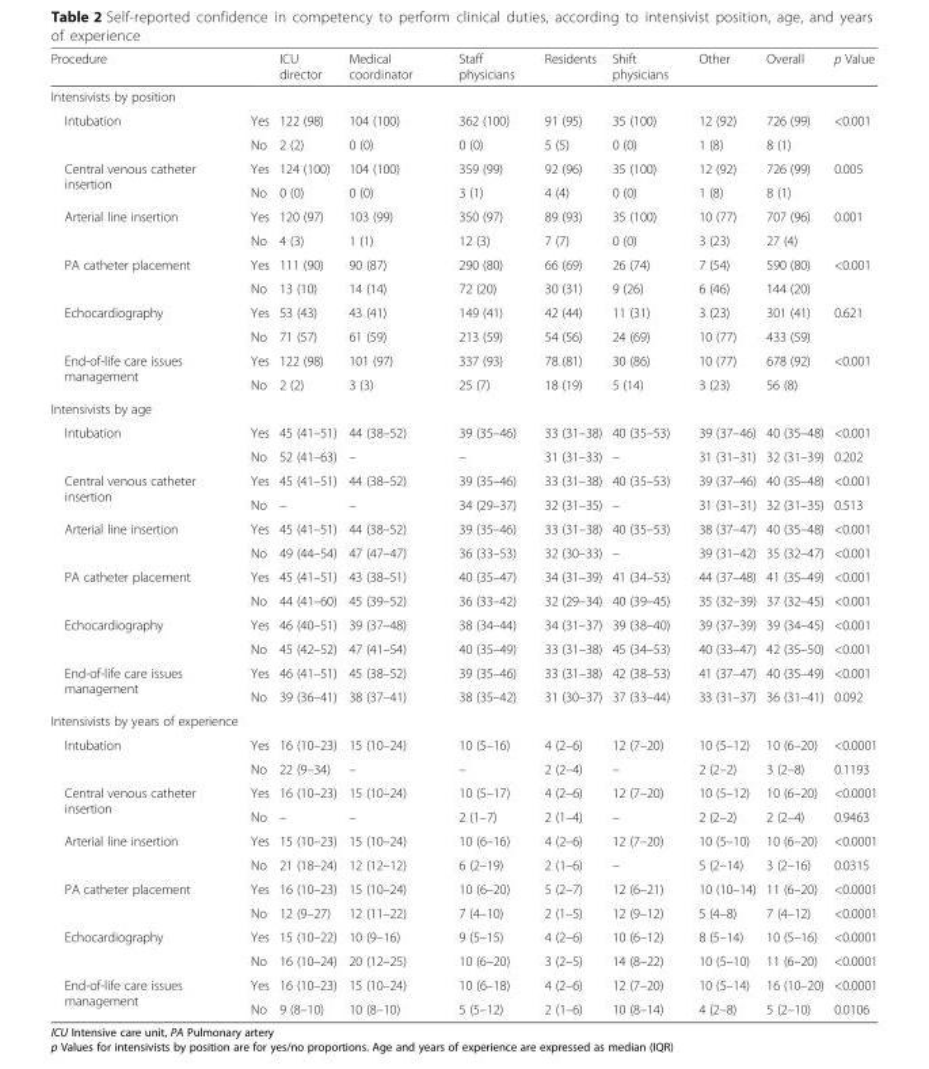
<table><thead><tr><td>Procedure</td><td></td><td>ICU director</td><td>Medical coordinator</td><td>Staff physicians</td><td>Residents</td><td>Shift physicians</td><td>Other</td><td>Overall</td><td>p Value</td></tr></thead><tbody><tr><td colspan="10">Intensivists by position</td></tr><tr><td rowspan="2">Intubation</td><td>Yes</td><td>122 (98)</td><td>104 (100)</td><td>362 (100)</td><td>91 (95)</td><td>35 (100)</td><td>12 (92)</td><td>726 (99)</td><td>&lt;0.001</td></tr><tr><td>No</td><td>2 (2)</td><td>0 (0)</td><td>0 (0)</td><td>5 (5)</td><td>0 (0)</td><td>1 (8)</td><td>8 (1)</td><td></td></tr><tr><td rowspan="2">Central venous catheter insertion</td><td>Yes</td><td>124 (100)</td><td>104 (100)</td><td>359 (99)</td><td>92 (96)</td><td>35 (100)</td><td>12 (92)</td><td>726 (99)</td><td>0.005</td></tr><tr><td>No</td><td>0 (0)</td><td>0 (0)</td><td>3 (1)</td><td>4 (4)</td><td>0 (0)</td><td>1 (8)</td><td>8 (1)</td><td></td></tr><tr><td rowspan="2">Arterial line insertion</td><td>Yes</td><td>120 (97)</td><td>103 (99)</td><td>350 (97)</td><td>89 (93)</td><td>35 (100)</td><td>10 (77)</td><td>707 (96)</td><td>0.001</td></tr><tr><td>No</td><td>4 (3)</td><td>1 (1)</td><td>12 (3)</td><td>7 (7)</td><td>0 (0)</td><td>3 (23)</td><td>27 (4)</td><td></td></tr><tr><td rowspan="2">PA catheter placement</td><td>Yes</td><td>111 (90)</td><td>90 (87)</td><td>290 (80)</td><td>66 (69)</td><td>26 (74)</td><td>7 (54)</td><td>590 (80)</td><td>&lt;0.001</td></tr><tr><td>No</td><td>13 (10)</td><td>14 (14)</td><td>72 (20)</td><td>30 (31)</td><td>9 (26)</td><td>6 (46)</td><td>144 (20)</td><td></td></tr><tr><td rowspan="2">Echocardiography</td><td>Yes</td><td>53 (43)</td><td>43 (41)</td><td>149 (41)</td><td>42 (44)</td><td>11 (31)</td><td>3 (23)</td><td>301 (41)</td><td>0.621</td></tr><tr><td>No</td><td>71 (57)</td><td>61 (59)</td><td>213 (59)</td><td>54 (56)</td><td>24 (69)</td><td>10 (77)</td><td>433 (59)</td><td></td></tr><tr><td rowspan="2">End-of-life care issues management</td><td>Yes</td><td>122 (98)</td><td>101 (97)</td><td>337 (93)</td><td>78 (81)</td><td>30 (86)</td><td>10 (77)</td><td>678 (92)</td><td>&lt;0.001</td></tr><tr><td>No</td><td>2 (2)</td><td>3 (3)</td><td>25 (7)</td><td>18 (19)</td><td>5 (14)</td><td>3 (23)</td><td>56 (8)</td><td></td></tr><tr><td colspan="10">Intensivists by age</td></tr><tr><td rowspan="2">Intubation</td><td>Yes</td><td>45 (41–51)</td><td>44 (38–52)</td><td>39 (35–46)</td><td>33 (31–38)</td><td>40 (35–53)</td><td>39 (37–46)</td><td>40 (35–48)</td><td>&lt;0.001</td></tr><tr><td>No</td><td>52 (41–63)</td><td>–</td><td>–</td><td>31 (31–33)</td><td>–</td><td>31 (31–31)</td><td>32 (31–39)</td><td>0.202</td></tr><tr><td rowspan="2">Central venous catheter insertion</td><td>Yes</td><td>45 (41–51)</td><td>44 (38–52)</td><td>39 (35–46)</td><td>33 (31–38)</td><td>40 (35–53)</td><td>39 (37–46)</td><td>40 (35–48)</td><td>&lt;0.001</td></tr><tr><td>No</td><td>–</td><td>–</td><td>34 (29–37)</td><td>32 (31–35)</td><td>–</td><td>31 (31–31)</td><td>32 (31–35)</td><td>0.513</td></tr><tr><td rowspan="2">Arterial line insertion</td><td>Yes</td><td>45 (41–51)</td><td>44 (38–52)</td><td>39 (35–46)</td><td>33 (31–38)</td><td>40 (35–53)</td><td>38 (37–47)</td><td>40 (35–48)</td><td>&lt;0.001</td></tr><tr><td>No</td><td>49 (44–54)</td><td>47 (47–47)</td><td>36 (33–53)</td><td>32 (30–33)</td><td>–</td><td>39 (31–42)</td><td>35 (32–47)</td><td>&lt;0.001</td></tr><tr><td rowspan="2">PA catheter placement</td><td>Yes</td><td>45 (41–51)</td><td>43 (38–51)</td><td>40 (35–47)</td><td>34 (31–39)</td><td>41 (34–53)</td><td>44 (37–48)</td><td>41 (35–49)</td><td>&lt;0.001</td></tr><tr><td>No</td><td>44 (41–60)</td><td>45 (39–52)</td><td>36 (33–42)</td><td>32 (29–34)</td><td>40 (39–45)</td><td>35 (32–39)</td><td>37 (32–45)</td><td>&lt;0.001</td></tr><tr><td rowspan="2">Echocardiography</td><td>Yes</td><td>46 (40–51)</td><td>39 (37–48)</td><td>38 (34–44)</td><td>34 (31–37)</td><td>39 (38–40)</td><td>39 (37–39)</td><td>39 (34–45)</td><td>&lt;0.001</td></tr><tr><td>No</td><td>45 (42–52)</td><td>47 (41–54)</td><td>40 (35–49)</td><td>33 (31–38)</td><td>45 (34–53)</td><td>40 (33–47)</td><td>42 (35–50)</td><td>&lt;0.001</td></tr><tr><td rowspan="2">End-of-life care issues management</td><td>Yes</td><td>46 (41–51)</td><td>45 (38–52)</td><td>39 (35–46)</td><td>33 (31–38)</td><td>42 (38–53)</td><td>41 (37–47)</td><td>40 (35–49)</td><td>&lt;0.001</td></tr><tr><td>No</td><td>39 (36–41)</td><td>38 (37–41)</td><td>38 (35–42)</td><td>31 (30–37)</td><td>37 (33–44)</td><td>33 (31–37)</td><td>36 (31–41)</td><td>0.092</td></tr><tr><td colspan="10">Intensivists by years of experience</td></tr><tr><td rowspan="2">Intubation</td><td>Yes</td><td>16 (10–23)</td><td>15 (10–24)</td><td>10 (5–16)</td><td>4 (2–6)</td><td>12 (7–20)</td><td>10 (5–12)</td><td>10 (6–20)</td><td>&lt;0.0001</td></tr><tr><td>No</td><td>22 (9–34)</td><td>–</td><td>–</td><td>2 (2–4)</td><td>–</td><td>2 (2–2)</td><td>3 (2–8)</td><td>0.1193</td></tr><tr><td rowspan="2">Central venous catheter insertion</td><td>Yes</td><td>16 (10–23)</td><td>15 (10–24)</td><td>10 (5–17)</td><td>4 (2–6)</td><td>12 (7–20)</td><td>10 (5–12)</td><td>10 (6–20)</td><td>&lt;0.0001</td></tr><tr><td>No</td><td>–</td><td>–</td><td>2 (1–7)</td><td>2 (1–4)</td><td>–</td><td>2 (2–2)</td><td>2 (2–4)</td><td>0.9463</td></tr><tr><td rowspan="2">Arterial line insertion</td><td>Yes</td><td>15 (10–23)</td><td>15 (10–24)</td><td>10 (6–16)</td><td>4 (2–6)</td><td>12 (7–20)</td><td>10 (5–10)</td><td>10 (6–20)</td><td>&lt;0.0001</td></tr><tr><td>No</td><td>21 (18–24)</td><td>12 (12–12)</td><td>6 (2–19)</td><td>2 (1–6)</td><td>–</td><td>5 (2–14)</td><td>3 (2–16)</td><td>0.0315</td></tr><tr><td rowspan="2">PA catheter placement</td><td>Yes</td><td>16 (10–23)</td><td>15 (10–24)</td><td>10 (6–20)</td><td>5 (2–7)</td><td>12 (6–21)</td><td>10 (10–14)</td><td>11 (6–20)</td><td>&lt;0.0001</td></tr><tr><td>No</td><td>12 (9–27)</td><td>12 (11–22)</td><td>7 (4–10)</td><td>2 (1–5)</td><td>12 (9–12)</td><td>5 (4–8)</td><td>7 (4–12)</td><td>&lt;0.0001</td></tr><tr><td rowspan="2">Echocardiography</td><td>Yes</td><td>15 (10–22)</td><td>10 (9–16)</td><td>9 (5–15)</td><td>4 (2–6)</td><td>10 (6–12)</td><td>8 (5–14)</td><td>10 (5–16)</td><td>&lt;0.0001</td></tr><tr><td>No</td><td>16 (10–24)</td><td>20 (12–25)</td><td>10 (6–20)</td><td>3 (2–5)</td><td>14 (8–22)</td><td>10 (5–10)</td><td>11 (6–20)</td><td>&lt;0.0001</td></tr><tr><td rowspan="2">End-of-life care issues management</td><td>Yes</td><td>16 (10–23)</td><td>15 (10–24)</td><td>10 (6–18)</td><td>4 (2–6)</td><td>12 (7–20)</td><td>10 (5–14)</td><td>16 (10–20)</td><td>&lt;0.0001</td></tr><tr><td>No</td><td>9 (8–10)</td><td>10 (8–10)</td><td>5 (5–12)</td><td>2 (1–6)</td><td>10 (8–14)</td><td>4 (2–8)</td><td>5 (2–10)</td><td>0.0106</td></tr></tbody></table>